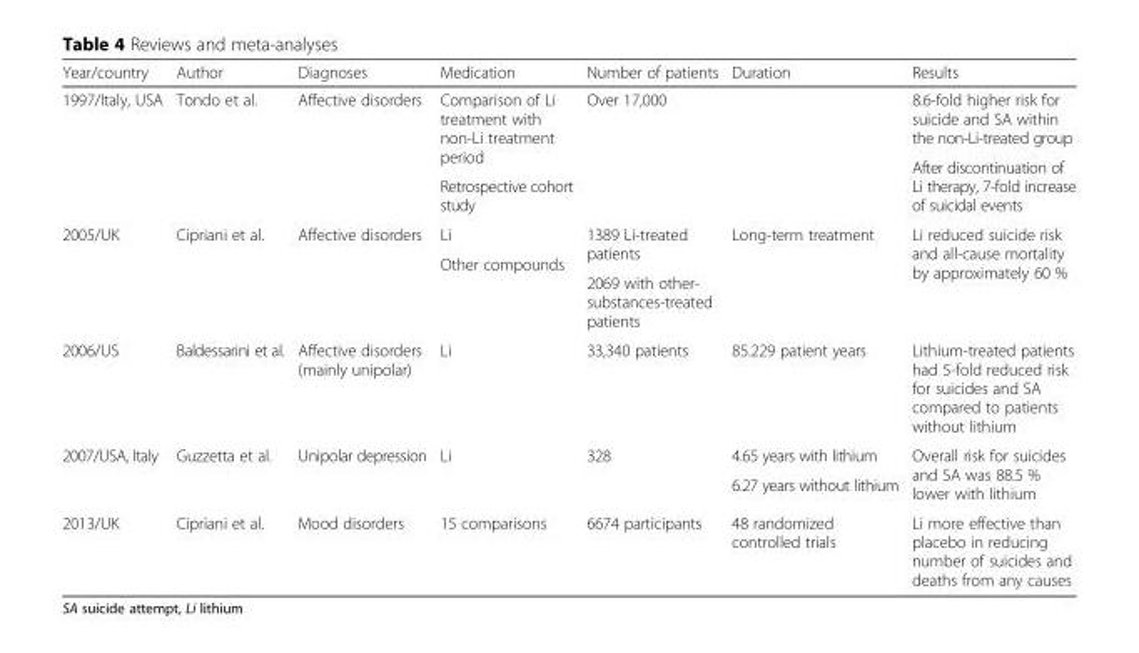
<table><thead><tr><td>Year/country</td><td>Author</td><td>Diagnoses</td><td>Medication</td><td>Number of patients</td><td>Duration</td><td>Results</td></tr></thead><tbody><tr><td rowspan="3">1997/Italy, USA</td><td rowspan="3">Tondo et al.</td><td rowspan="3">Affective disorders</td><td rowspan="2">Comparison of Li treatment with non-Li treatment period</td><td rowspan="3">Over 17,000</td><td rowspan="3"></td><td>8.6-fold higher risk for suicide and SA within the non-Li-treated group</td></tr><tr><td rowspan="2">After discontinuation of Li therapy, 7-fold increase of suicidal events</td></tr><tr><td>Retrospective cohort study</td></tr><tr><td rowspan="3">2005/UK</td><td rowspan="3">Cipriani et al.</td><td rowspan="3">Affective disorders</td><td>Li</td><td rowspan="2">1389 Li-treated patients</td><td rowspan="3">Long-term treatment</td><td rowspan="3">Li reduced suicide risk and all-cause mortality by approximately 60 %</td></tr><tr><td rowspan="2">Other compounds</td></tr><tr><td>2069 with other- substances-treated patients</td></tr><tr><td>2006/US</td><td>Baldessarini et al.</td><td>Affective disorders (mainly unipolar)</td><td>Li</td><td>33,340 patients</td><td>85.229 patient years</td><td>Lithium-treated patients had 5-fold reduced risk for suicides and SA compared to patients without lithium</td></tr><tr><td rowspan="2">2007/USA, Italy</td><td rowspan="2">Guzzetta et al.</td><td rowspan="2">Unipolar depression</td><td rowspan="2">Li</td><td rowspan="2">328</td><td>4.65 years with lithium</td><td rowspan="2">Overall risk for suicides and SA was 88.5 % lower with lithium</td></tr><tr><td>6.27 years without lithium</td></tr><tr><td>2013/UK</td><td>Cipriani et al.</td><td>Mood disorders</td><td>15 comparisons</td><td>6674 participants</td><td>48 randomized controlled trials</td><td>Li more effective than placebo in reducing number of suicides and deaths from any causes</td></tr></tbody></table>